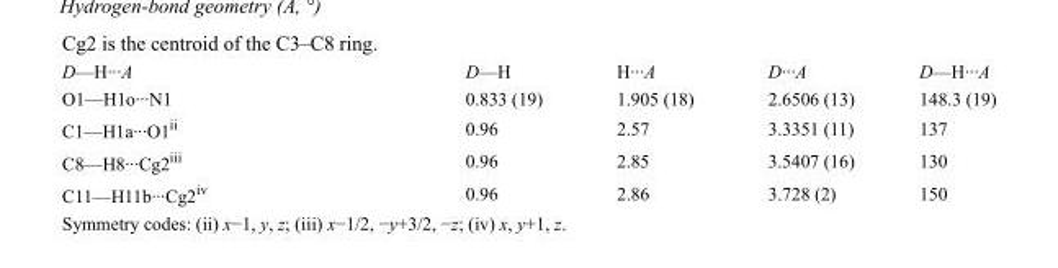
<table><tbody><tr><td>D—H···A</td><td>D—H</td><td>H···A</td><td>D···A</td><td>D—H···A</td></tr><tr><td>O1—H1o···N1</td><td>0.833 (19)</td><td>1.905 (18)</td><td>2.6506 (13)</td><td>148.3 (19)</td></tr><tr><td>C1—H1a···O1<sup>ii</sup></td><td>0.96</td><td>2.57</td><td>3.3351 (11)</td><td>137</td></tr><tr><td>C8—H8···Cg2<sup>iii</sup></td><td>0.96</td><td>2.85</td><td>3.5407 (16)</td><td>130</td></tr><tr><td>C11—H11b···Cg2<sup>iv</sup></td><td>0.96</td><td>2.86</td><td>3.728 (2)</td><td>150</td></tr></tbody></table>